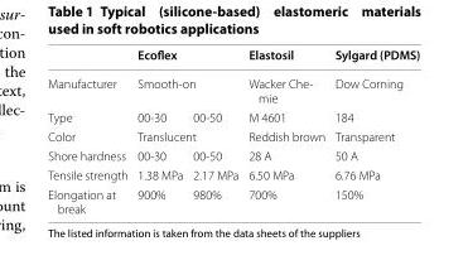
<table><thead><tr><td rowspan="3">Manufacturer Type</td><td rowspan="2" colspan="2">Ecoflex Smooth-on</td><td rowspan="3">Elastosil Wacker Che- mie M 4601</td><td rowspan="3">Sylgard (PDMS) Dow Corning 184</td></tr><tr></tr><tr><td>00-30</td><td>00-50</td></tr></thead><tbody><tr><td>Color</td><td colspan="2">Translucent</td><td>Reddish brown</td><td>Transparent</td></tr><tr><td>Shore hardness</td><td>00-30</td><td>00-50</td><td>28 A</td><td>50 A</td></tr><tr><td>Tensile strength</td><td>1.38 MPa</td><td>2.17 MPa</td><td>6.50 MPa</td><td>6.76 MPa</td></tr><tr><td>Elongation at break</td><td>900%</td><td>980%</td><td>700%</td><td>150%</td></tr></tbody></table>